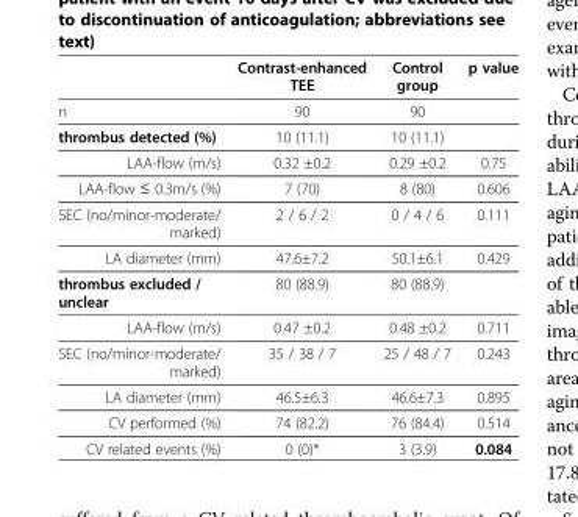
<table><thead><tr><td></td><td>Contrast-enhanced TEE</td><td>Control group</td><td>p value</td></tr></thead><tbody><tr><td>n</td><td>90</td><td>90</td><td></td></tr><tr><td>thrombus detected (%)</td><td>10 (11.1)</td><td>10 (11.1)</td><td></td></tr><tr><td>LAA-flow (m/s)</td><td>0.32 ±0.2</td><td>0.29 ±0.2</td><td>0.75</td></tr><tr><td>LAA-flow ≤ 0.3m/s (%)</td><td>7 (70)</td><td>8 (80)</td><td>0.606</td></tr><tr><td>SEC (no/minor-moderate/ marked)</td><td>2 / 6 / 2</td><td>0 / 4 / 6</td><td>0.111</td></tr><tr><td>LA diameter (mm)</td><td>47.6±7.2</td><td>50.1±6.1</td><td>0.429</td></tr><tr><td>thrombus excluded / unclear</td><td>80 (88.9)</td><td>80 (88.9)</td><td></td></tr><tr><td>LAA-flow (m/s)</td><td>0.47 ±0.2</td><td>0.48 ±0.2</td><td>0.711</td></tr><tr><td>SEC (no/minor-moderate/ marked)</td><td>35 / 38 / 7</td><td>25 / 48 / 7</td><td>0.243</td></tr><tr><td>LA diameter (mm)</td><td>46.5±6.3</td><td>46.6±7.3</td><td>0.895</td></tr><tr><td>CV performed (%)</td><td>74 (82.2)</td><td>76 (84.4)</td><td>0.514</td></tr><tr><td>CV related events (%)</td><td>0 (0)*</td><td>3 (3.9)</td><td>0.084</td></tr></tbody></table>